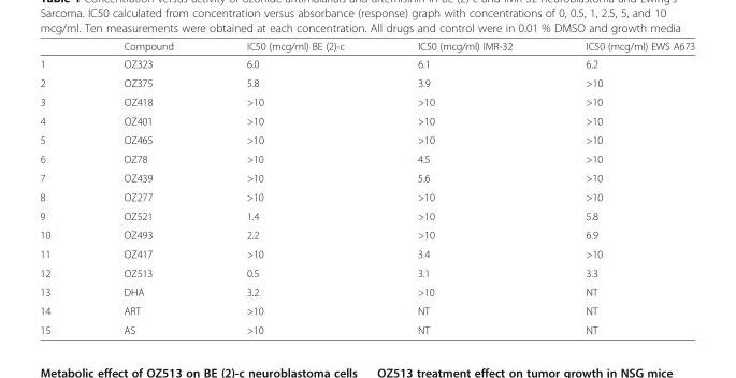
<table><thead><tr><td></td><td>Compound</td><td>IC50 (mcg/ml) BE (2)-c</td><td>IC50 (mcg/ml) IMR-32</td><td>IC50 (mcg/ml) EWS A673</td></tr></thead><tbody><tr><td>1</td><td>OZ323</td><td>6.0</td><td>6.1</td><td>6.2</td></tr><tr><td>2</td><td>OZ375</td><td>5.8</td><td>3.9</td><td>&gt;10</td></tr><tr><td>3</td><td>OZ418</td><td>&gt;10</td><td>&gt;10</td><td>&gt;10</td></tr><tr><td>4</td><td>OZ401</td><td>&gt;10</td><td>&gt;10</td><td>&gt;10</td></tr><tr><td>5</td><td>OZ465</td><td>&gt;10</td><td>&gt;10</td><td>&gt;10</td></tr><tr><td>6</td><td>OZ78</td><td>&gt;10</td><td>4.5</td><td>&gt;10</td></tr><tr><td>7</td><td>OZ439</td><td>&gt;10</td><td>5.6</td><td>&gt;10</td></tr><tr><td>8</td><td>OZ277</td><td>&gt;10</td><td>&gt;10</td><td>&gt;10</td></tr><tr><td>9</td><td>OZ521</td><td>1.4</td><td>&gt;10</td><td>5.8</td></tr><tr><td>10</td><td>OZ493</td><td>2.2</td><td>&gt;10</td><td>6.9</td></tr><tr><td>11</td><td>OZ417</td><td>&gt;10</td><td>3.4</td><td>&gt;10</td></tr><tr><td>12</td><td>OZ513</td><td>0.5</td><td>3.1</td><td>3.3</td></tr><tr><td>13</td><td>DHA</td><td>3.2</td><td>&gt;10</td><td>NT</td></tr><tr><td>14</td><td>ART</td><td>&gt;10</td><td>NT</td><td>NT</td></tr><tr><td>15</td><td>AS</td><td>&gt;10</td><td>NT</td><td>NT</td></tr></tbody></table>